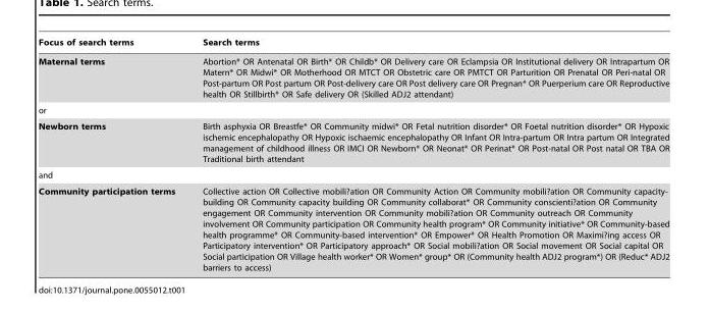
<table><thead><tr><td>Focus of search terms</td><td>Search terms</td></tr></thead><tbody><tr><td>Maternal terms</td><td>Abortion* OR Antenatal OR Birth* OR Childb* OR Delivery care OR Eclampsia OR Institutional delivery OR Intrapartum OR Matern* OR Midwi* OR Motherhood OR MTCT OR Obstetric care OR PMTCT OR Parturition OR Prenatal OR Peri-natal OR Post-partum OR Post partum OR Post-delivery care OR Post delivery care OR Pregnan* OR Puerperium care OR Reproductive health OR Stillbirth* OR Safe delivery OR (Skilled ADJ2 attendant)</td></tr><tr><td colspan="2">or</td></tr><tr><td>Newborn terms</td><td>Birth asphyxia OR Breastfe* OR Community midwi* OR Fetal nutrition disorder* OR Foetal nutrition disorder* OR Hypoxic ischemic encephalopathy OR Hypoxic ischaemic encephalopathy OR Infant OR Intra-partum OR Intra partum OR Integrated management of childhood illness OR IMCI OR Newborn* OR Neonat* OR Perinat* OR Post-natal OR Post natal OR TBA OR Traditional birth attendant</td></tr><tr><td colspan="2">and</td></tr><tr><td>Community participation terms</td><td>Collective action OR Collective mobili?ation OR Community Action OR Community mobili?ation OR Community capacity- building OR Community capacity building OR Community collaborat* OR Community conscienti?ation OR Community engagement OR Community intervention OR Community mobili?ation OR Community outreach OR Community involvement OR Community participation OR Community health program* OR Community initiative* OR Community-based health programme* OR Community-based intervention* OR Empower* OR Health Promotion OR Maximi?ing access OR Participatory intervention* OR Participatory approach* OR Social mobili?ation OR Social movement OR Social capital OR Social participation OR Village health worker* OR Women* group* OR (Community health ADJ2 program*) OR (Reduc* ADJ2 barriers to access)</td></tr></tbody></table>